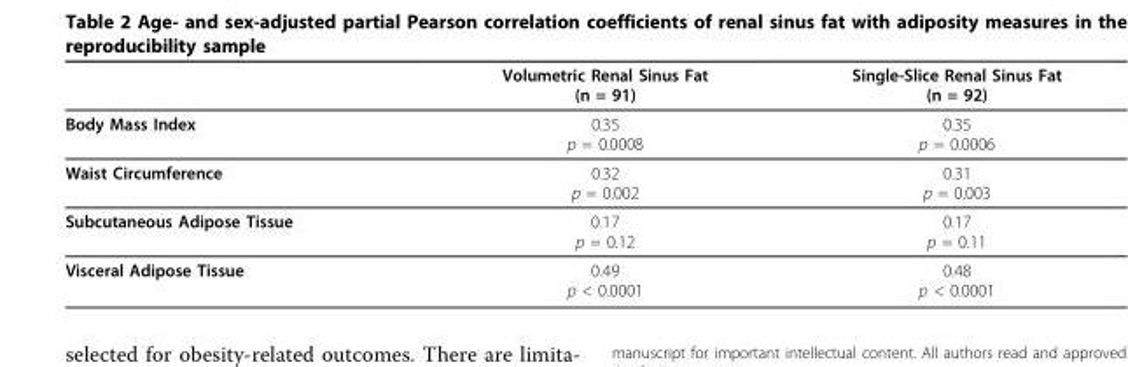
<table><thead><tr><td></td><td>Volumetric Renal Sinus Fat (n = 91)</td><td>Single-Slice Renal Sinus Fat (n = 92)</td></tr></thead><tbody><tr><td>Body Mass Index</td><td>0.35 p = 0.0008</td><td>0.35 p = 0.0006</td></tr><tr><td>Waist Circumference</td><td>0.32 p = 0.002</td><td>0.31 p = 0.003</td></tr><tr><td>Subcutaneous Adipose Tissue</td><td>0.17 p = 0.12</td><td>0.17 p = 0.11</td></tr><tr><td>Visceral Adipose Tissue</td><td>0.49 p &lt; 0.0001</td><td>0.48 p &lt; 0.0001</td></tr></tbody></table>